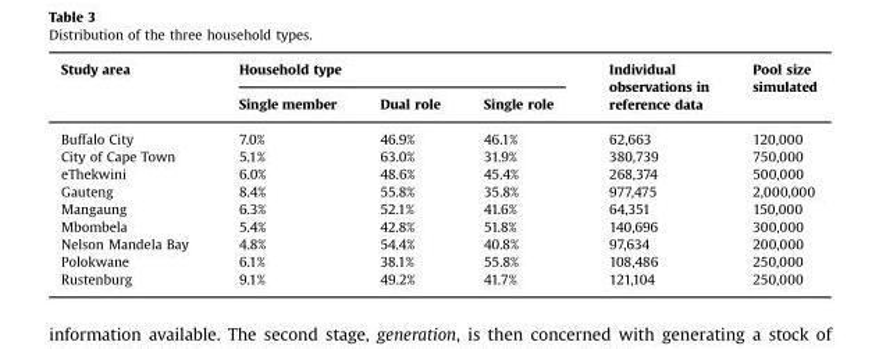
<table><thead><tr><td rowspan="2">Study area</td><td colspan="3">Household type</td><td rowspan="2">Individual observations in reference data</td><td rowspan="2">Pool size simulated</td></tr><tr><td>Single member</td><td>Dual role</td><td>Single role</td></tr></thead><tbody><tr><td>Buffalo City</td><td>7.0%</td><td>46.9%</td><td>46.1%</td><td>62,663</td><td>120,000</td></tr><tr><td>City of Cape Town</td><td>5.1%</td><td>63.0%</td><td>31.9%</td><td>380,739</td><td>750,000</td></tr><tr><td>eThekwini</td><td>6.0%</td><td>48.6%</td><td>45.4%</td><td>268,374</td><td>500,000</td></tr><tr><td>Gauteng</td><td>8.4%</td><td>55.8%</td><td>35.8%</td><td>977,475</td><td>2,000,000</td></tr><tr><td>Mangaung</td><td>6.3%</td><td>52.1%</td><td>41.6%</td><td>64,351</td><td>150,000</td></tr><tr><td>Mbombela</td><td>5.4%</td><td>42.8%</td><td>51.8%</td><td>140,696</td><td>300,000</td></tr><tr><td>Nelson Mandela Bay</td><td>4.8%</td><td>54.4%</td><td>40.8%</td><td>97,634</td><td>200,000</td></tr><tr><td>Polokwane</td><td>6.1%</td><td>38.1%</td><td>55.8%</td><td>108,486</td><td>250,000</td></tr><tr><td>Rustenburg</td><td>9.1%</td><td>49.2%</td><td>41.7%</td><td>121,104</td><td>250,000</td></tr></tbody></table>